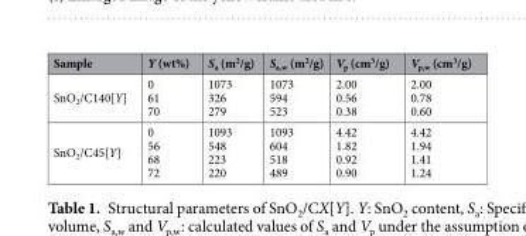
<table><thead><tr><td>Sample</td><td>Y (wt%)</td><td>S<sub>a</sub> (m<sup>2</sup>/g)</td><td>S<sub>a,w</sub> (m<sup>2</sup>/g)</td><td>V<sub>p</sub> (cm<sup>3</sup>/g)</td><td>V<sub>p,w</sub> (cm<sup>3</sup>/g)</td></tr></thead><tbody><tr><td>SnO<sub>2</sub>/C140[Y]</td><td>0 61 70</td><td>1073 326 279</td><td>1073 594 523</td><td>2.00 0.56 0.38</td><td>2.00 0.78 0.60</td></tr><tr><td>SnO<sub>2</sub>/C45[Y]</td><td>0 56 68 72</td><td>1093 548 223 220</td><td>1093 604 518 489</td><td>4.42 1.82 0.92 0.90</td><td>4.42 1.94 1.41 1.24</td></tr></tbody></table>